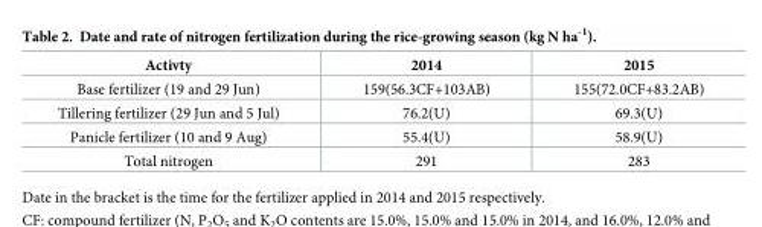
<table><thead><tr><td>Activty</td><td>2014</td><td>2015</td></tr></thead><tbody><tr><td>Base fertilizer (19 and 29 Jun)</td><td>159(56.3CF+103AB)</td><td>155(72.0CF+83.2AB)</td></tr><tr><td>Tillering fertilizer (29 Jun and 5 Jul)</td><td>76.2(U)</td><td>69.3(U)</td></tr><tr><td>Panicle fertilizer (10 and 9 Aug)</td><td>55.4(U)</td><td>58.9(U)</td></tr><tr><td>Total nitrogen</td><td>291</td><td>283</td></tr></tbody></table>